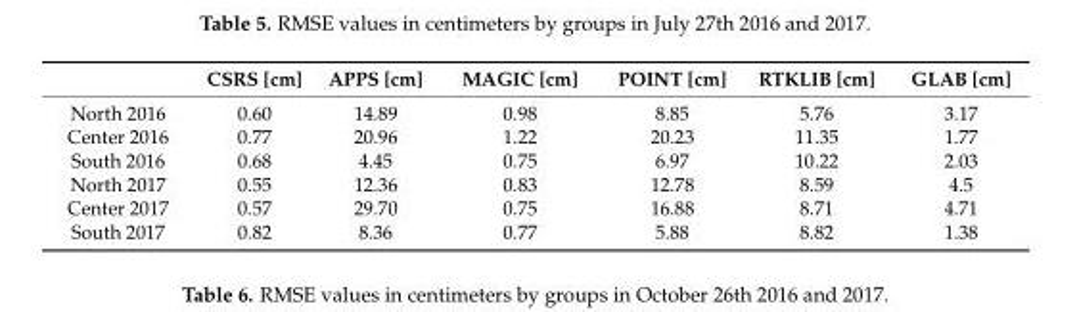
<table><thead><tr><td></td><td>CSRS [cm]</td><td>APPS [cm]</td><td>MAGIC [cm]</td><td>POINT [cm]</td><td>RTKLIB [cm]</td><td>GLAB [cm]</td></tr></thead><tbody><tr><td>North 2016</td><td>0.60</td><td>14.89</td><td>0.98</td><td>8.85</td><td>5.76</td><td>3.17</td></tr><tr><td>Center 2016</td><td>0.77</td><td>20.96</td><td>1.22</td><td>20.23</td><td>11.35</td><td>1.77</td></tr><tr><td>South 2016</td><td>0.68</td><td>4.45</td><td>0.75</td><td>6.97</td><td>10.22</td><td>2.03</td></tr><tr><td>North 2017</td><td>0.55</td><td>12.36</td><td>0.83</td><td>12.78</td><td>8.59</td><td>4.5</td></tr><tr><td>Center 2017</td><td>0.57</td><td>29.70</td><td>0.75</td><td>16.88</td><td>8.71</td><td>4.71</td></tr><tr><td>South 2017</td><td>0.82</td><td>8.36</td><td>0.77</td><td>5.88</td><td>8.82</td><td>1.38</td></tr></tbody></table>